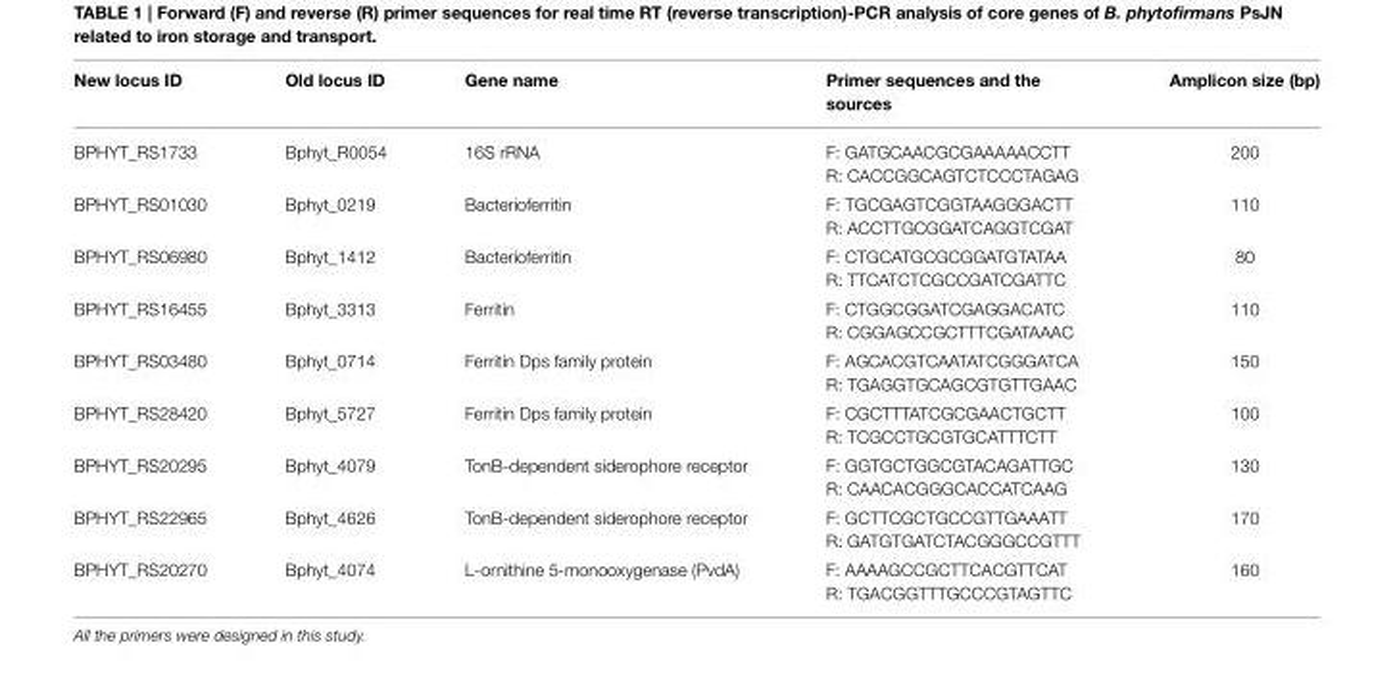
<table><thead><tr><td>New locus ID</td><td>Old locus ID</td><td>Gene name</td><td>Primer sequences and the sources</td><td>Amplicon size (bp)</td></tr></thead><tbody><tr><td>BPHYT_RS1733</td><td>Bphyt_R0054</td><td>16S rRNA</td><td>F: GATGCAACGCGAAAAACCTT R: CACCGGCAGTCTCCCTAGAG</td><td>200</td></tr><tr><td>BPHYT_RS01030</td><td>Bphyt_0219</td><td>Bacterioferritin</td><td>F: TGCGAGTCGGTAAGGGACTT R: ACCTTGCGGATCAGGTCGAT</td><td>110</td></tr><tr><td>BPHYT_RS06980</td><td>Bphyt_1412</td><td>Bacterioferritin</td><td>F: CTGCATGCGCGGATGTATAA R: TTCATCTCGCCGATCGATTC</td><td>80</td></tr><tr><td>BPHYT_RS16455</td><td>Bphyt_3313</td><td>Ferritin</td><td>F: CTGGCGGATCGAGGACATC R: CGGAGCCGCTTTCGATAAAC</td><td>110</td></tr><tr><td>BPHYT_RS03480</td><td>Bphyt_0714</td><td>Ferritin Dps family protein</td><td>F: AGCACGTCAATATCGGGATCA R: TGAGGTGCAGCGTGTTGAAC</td><td>150</td></tr><tr><td>BPHYT_RS28420</td><td>Bphyt_5727</td><td>Ferritin Dps family protein</td><td>F: CGCTTTATCGCGAACTGCTT R: TCGCCTGCGTGCATTTCTT</td><td>100</td></tr><tr><td>BPHYT_RS20295</td><td>Bphyt_4079</td><td>TonB-dependent siderophore receptor</td><td>F: GGTGCTGGCGTACAGATTGC R: CAACACGGGCACCATCAAG</td><td>130</td></tr><tr><td>BPHYT_RS22965</td><td>Bphyt_4626</td><td>TonB-dependent siderophore receptor</td><td>F: GCTTCGCTGCCGTTGAAATT R: GATGTGATCTACGGGCCGTTT</td><td>170</td></tr><tr><td>BPHYT_RS20270</td><td>Bphyt_4074</td><td>L-ornithine 5-monooxygenase (PvdA)</td><td>F: AAAAGCCGCTTCACGTTCAT R: TGACGGTTTGCCCGTAGTTC</td><td>160</td></tr></tbody></table>